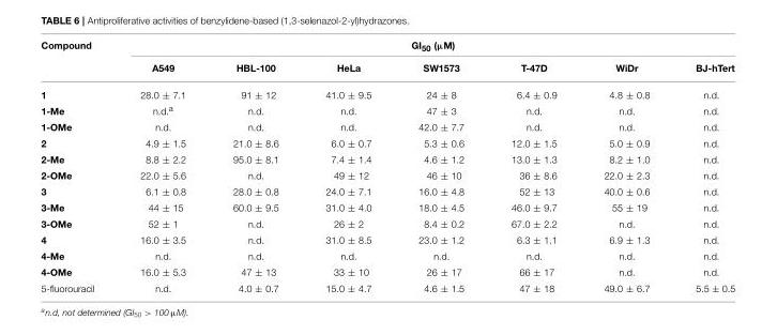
<table><thead><tr><td rowspan="2">Compound</td><td colspan="7">GI<sub>50</sub> (µM)</td></tr><tr><td>A549</td><td>HBL-100</td><td>HeLa</td><td>SW1573</td><td>T-47D</td><td>WiDr</td><td>BJ-hTert</td></tr></thead><tbody><tr><td>1</td><td>28.0 ± 7.1</td><td>91 ± 12</td><td>41.0 ± 9.5</td><td>24 ± 8</td><td>6.4 ± 0.9</td><td>4.8 ± 0.8</td><td>n.d.</td></tr><tr><td>1-Me</td><td>n.d.<sup>a</sup></td><td>n.d.</td><td>n.d.</td><td>47 ± 3</td><td>n.d.</td><td>n.d.</td><td>n.d.</td></tr><tr><td>1-OMe</td><td>n.d.</td><td>n.d.</td><td>n.d.</td><td>42.0 ± 7.7</td><td>n.d.</td><td>n.d.</td><td>n.d.</td></tr><tr><td>2</td><td>4.9 ± 1.5</td><td>21.0 ± 8.6</td><td>6.0 ± 0.7</td><td>5.3 ± 0.6</td><td>12.0 ± 1.5</td><td>5.0 ± 0.9</td><td>n.d.</td></tr><tr><td>2-Me</td><td>8.8 ± 2.2</td><td>95.0 ± 8.1</td><td>7.4 ± 1.4</td><td>4.6 ± 1.2</td><td>13.0 ± 1.3</td><td>8.2 ± 1.0</td><td>n.d.</td></tr><tr><td>2-OMe</td><td>22.0 ± 5.6</td><td>n.d.</td><td>49 ± 12</td><td>46 ± 10</td><td>36 ± 8.6</td><td>22.0 ± 2.3</td><td>n.d.</td></tr><tr><td>3</td><td>6.1 ± 0.8</td><td>28.0 ± 0.8</td><td>24.0 ± 7.1</td><td>16.0 ± 4.8</td><td>52 ± 13</td><td>40.0 ± 0.6</td><td>n.d.</td></tr><tr><td>3-Me</td><td>44 ± 15</td><td>60.0 ± 9.5</td><td>31.0 ± 4.0</td><td>18.0 ± 4.5</td><td>46.0 ± 9.7</td><td>55 ± 19</td><td>n.d.</td></tr><tr><td>3-OMe</td><td>52 ± 1</td><td>n.d.</td><td>26 ± 2</td><td>8.4 ± 0.2</td><td>67.0 ± 2.2</td><td>n.d.</td><td>n.d.</td></tr><tr><td>4</td><td>16.0 ± 3.5</td><td>n.d.</td><td>31.0 ± 8.5</td><td>23.0 ± 1.2</td><td>6.3 ± 1.1</td><td>6.9 ± 1.3</td><td>n.d.</td></tr><tr><td>4-Me</td><td>n.d.</td><td>n.d.</td><td>n.d.</td><td>n.d.</td><td>n.d.</td><td>n.d.</td><td>n.d.</td></tr><tr><td>4-OMe</td><td>16.0 ± 5.3</td><td>47 ± 13</td><td>33 ± 10</td><td>26 ± 17</td><td>66 ± 17</td><td>n.d.</td><td>n.d.</td></tr><tr><td>5-fluorouracil</td><td>n.d.</td><td>4.0 ± 0.7</td><td>15.0 ± 4.7</td><td>4.6 ± 1.5</td><td>47 ± 18</td><td>49.0 ± 6.7</td><td>5.5 ± 0.5</td></tr></tbody></table>